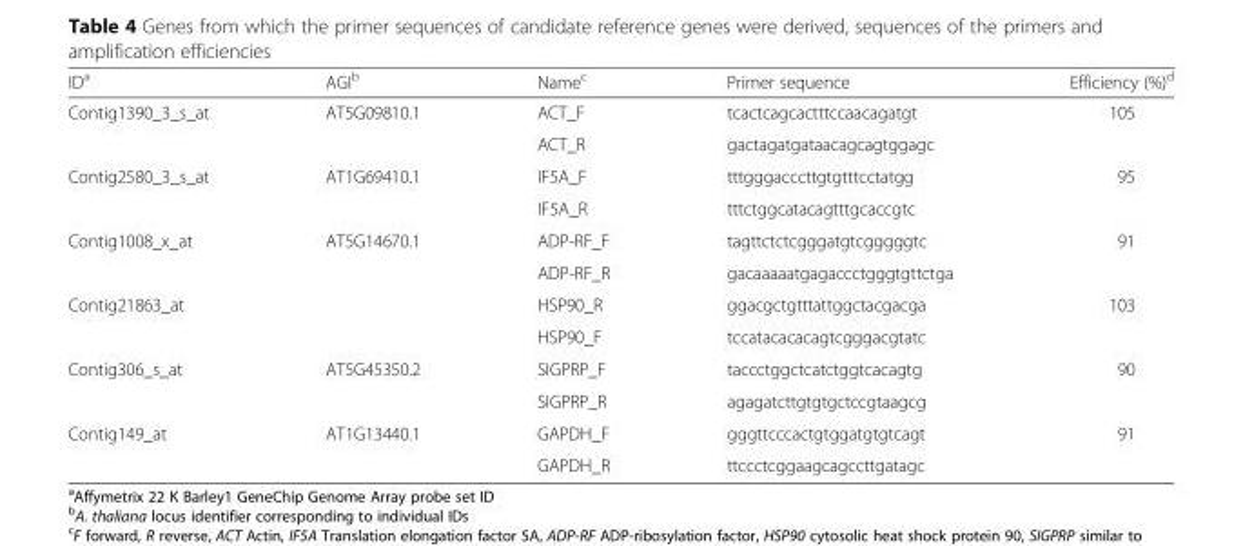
<table><thead><tr><td>ID<sup>a</sup></td><td>AGI<sup>b</sup></td><td>Name<sup>c</sup></td><td>Primer sequence</td><td>Efficiency (%)<sup>d</sup></td></tr></thead><tbody><tr><td rowspan="2">Contig1390_3_s_at</td><td rowspan="2">AT5G09810.1</td><td>ACT_F</td><td>tcactcagcactttccaacagatgt</td><td rowspan="2">105</td></tr><tr><td>ACT_R</td><td>gactagatgataacagcagtggagc</td></tr><tr><td rowspan="2">Contig2580_3_s_at</td><td rowspan="2">AT1G69410.1</td><td>IF5A_F</td><td>tttgggacccttgtgtttcctatgg</td><td rowspan="2">95</td></tr><tr><td>IF5A_R</td><td>tttctggcatacagtttgcaccgtc</td></tr><tr><td rowspan="2">Contig1008_x_at</td><td rowspan="2">AT5G14670.1</td><td>ADP-RF_F</td><td>tagttctctcgggatgtcgggggtc</td><td rowspan="2">91</td></tr><tr><td>ADP-RF_R</td><td>gacaaaaatgagaccctgggtgttctga</td></tr><tr><td rowspan="2">Contig21863_at</td><td rowspan="2"></td><td>HSP90_R</td><td>ggacgctgtttattggctacgacga</td><td rowspan="2">103</td></tr><tr><td>HSP90_F</td><td>tccatacacacagtcgggacgtatc</td></tr><tr><td rowspan="2">Contig306_s_at</td><td rowspan="2">AT5G45350.2</td><td>SIGPRP_F</td><td>taccctggctcatctggtcacagtg</td><td rowspan="2">90</td></tr><tr><td>SIGPRP_R</td><td>agagatcttgtgtgctccgtaagcg</td></tr><tr><td rowspan="2">Contig149_at</td><td rowspan="2">AT1G13440.1</td><td>GAPDH_F</td><td>gggttcccactgtggatgtgtcagt</td><td rowspan="2">91</td></tr><tr><td>GAPDH_R</td><td>ttccctcggaagcagccttgatagc</td></tr></tbody></table>